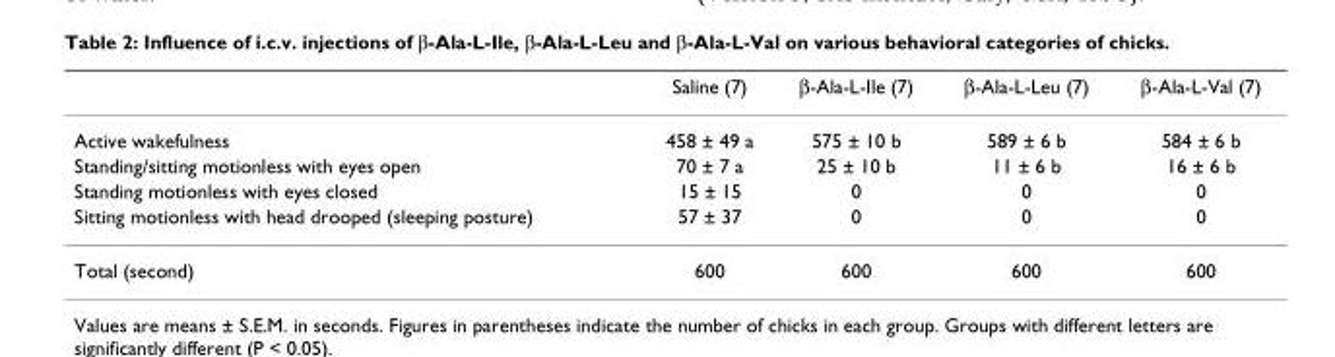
<table><thead><tr><td></td><td>Saline (7)</td><td>β-Ala-L-Ile (7)</td><td>β-Ala-L-Leu (7)</td><td>β-Ala-L-Val (7)</td></tr></thead><tbody><tr><td>Active wakefulness</td><td>458 ± 49 a</td><td>575 ± 10 b</td><td>589 ± 6 b</td><td>584 ± 6 b</td></tr><tr><td>Standing/sitting motionless with eyes open</td><td>70 ± 7 a</td><td>25 ± 10 b</td><td>11 ± 6 b</td><td>16 ± 6 b</td></tr><tr><td>Standing motionless with eyes closed</td><td>15 ± 15</td><td>0</td><td>0</td><td>0</td></tr><tr><td>Sitting motionless with head drooped (sleeping posture)</td><td>57 ± 37</td><td>0</td><td>0</td><td>0</td></tr><tr><td>Total (second)</td><td>600</td><td>600</td><td>600</td><td>600</td></tr></tbody></table>